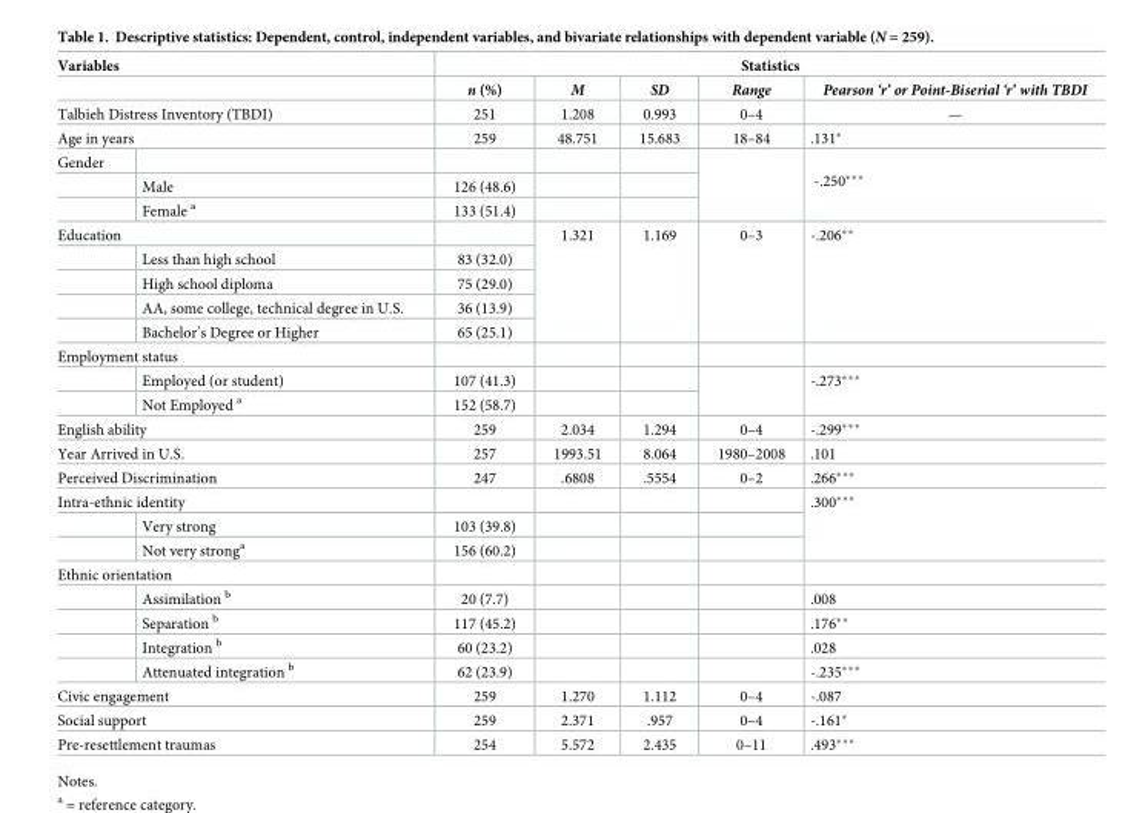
<table><thead><tr><td colspan="2">Variables</td><td colspan="5">Statistics</td></tr><tr><td></td><td></td><td>n (%)</td><td>M</td><td>SD</td><td>Range</td><td>Pearson ‘r’ or Point-Biserial ‘r’ with TBDI</td></tr></thead><tbody><tr><td colspan="2">Talbieh Distress Inventory (TBDI)</td><td>251</td><td>1.208</td><td>0.993</td><td>0–4</td><td>—</td></tr><tr><td colspan="2">Age in years</td><td>259</td><td>48.751</td><td>15.683</td><td>18–84</td><td>.131*</td></tr><tr><td colspan="5">Gender</td><td rowspan="3"></td><td rowspan="3">-.250***</td></tr><tr><td></td><td>Male</td><td>126 (48.6)</td><td></td><td></td></tr><tr><td></td><td>Female <sup>a</sup></td><td>133 (51.4)</td><td></td><td></td></tr><tr><td colspan="3">Education</td><td rowspan="5">1.321</td><td rowspan="5">1.169</td><td rowspan="5">0–3</td><td rowspan="5">-.206**</td></tr><tr><td></td><td>Less than high school</td><td>83 (32.0)</td></tr><tr><td></td><td>High school diploma</td><td>75 (29.0)</td></tr><tr><td></td><td>AA, some college, technical degree in U.S.</td><td>36 (13.9)</td></tr><tr><td></td><td>Bachelor’s Degree or Higher</td><td>65 (25.1)</td></tr><tr><td colspan="7">Employment status</td></tr><tr><td></td><td>Employed (or student)</td><td>107 (41.3)</td><td></td><td></td><td rowspan="2"></td><td rowspan="2">-.273***</td></tr><tr><td></td><td>Not Employed <sup>a</sup></td><td>152 (58.7)</td><td></td><td></td></tr><tr><td colspan="2">English ability</td><td>259</td><td>2.034</td><td>1.294</td><td>0–4</td><td>-.299***</td></tr><tr><td colspan="2">Year Arrived in U.S.</td><td>257</td><td>1993.51</td><td>8.064</td><td>1980–2008</td><td>.101</td></tr><tr><td colspan="2">Perceived Discrimination</td><td>247</td><td>.6808</td><td>.5554</td><td>0–2</td><td>.266***</td></tr><tr><td colspan="6">Intra-ethnic identity</td><td rowspan="3">.300***</td></tr><tr><td></td><td>Very strong</td><td>103 (39.8)</td><td></td><td></td><td></td></tr><tr><td></td><td>Not very strong<sup>a</sup></td><td>156 (60.2)</td><td></td><td></td><td></td></tr><tr><td colspan="7">Ethnic orientation</td></tr><tr><td></td><td>Assimilation <sup>b</sup></td><td>20 (7.7)</td><td></td><td></td><td></td><td>.008</td></tr><tr><td></td><td>Separation <sup>b</sup></td><td>117 (45.2)</td><td></td><td></td><td></td><td>.176**</td></tr><tr><td></td><td>Integration <sup>b</sup></td><td>60 (23.2)</td><td></td><td></td><td></td><td>.028</td></tr><tr><td></td><td>Attenuated integration <sup>b</sup></td><td>62 (23.9)</td><td></td><td></td><td></td><td>-.235***</td></tr><tr><td colspan="2">Civic engagement</td><td>259</td><td>1.270</td><td>1.112</td><td>0–4</td><td>-.087</td></tr><tr><td colspan="2">Social support</td><td>259</td><td>2.371</td><td>.957</td><td>0–4</td><td>-.161*</td></tr><tr><td colspan="2">Pre-resettlement traumas</td><td>254</td><td>5.572</td><td>2.435</td><td>0–11</td><td>.493***</td></tr></tbody></table>